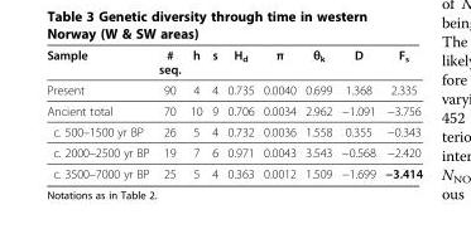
<table><thead><tr><td>Sample</td><td># seq.</td><td>h</td><td>s</td><td>H<sub>d</sub></td><td>π</td><td>θ<sub>k</sub></td><td>D</td><td>F<sub>s</sub></td></tr></thead><tbody><tr><td>Present</td><td>90</td><td>4</td><td>4</td><td>0.735</td><td>0.0040</td><td>0.699</td><td>1.368</td><td>2.335</td></tr><tr><td>Ancient total</td><td>70</td><td>10</td><td>9</td><td>0.706</td><td>0.0034</td><td>2.962</td><td>−1.091</td><td>−3.756</td></tr><tr><td>c. 500–1500 yr BP</td><td>26</td><td>5</td><td>4</td><td>0.732</td><td>0.0036</td><td>1.558</td><td>0.355</td><td>−0.343</td></tr><tr><td>c. 2000–2500 yr BP</td><td>19</td><td>7</td><td>6</td><td>0.971</td><td>0.0043</td><td>3.543</td><td>−0.568</td><td>−2.420</td></tr><tr><td>c. 3500–7000 yr BP</td><td>25</td><td>5</td><td>4</td><td>0.363</td><td>0.0012</td><td>1.509</td><td>−1.699</td><td>−3.414</td></tr></tbody></table>